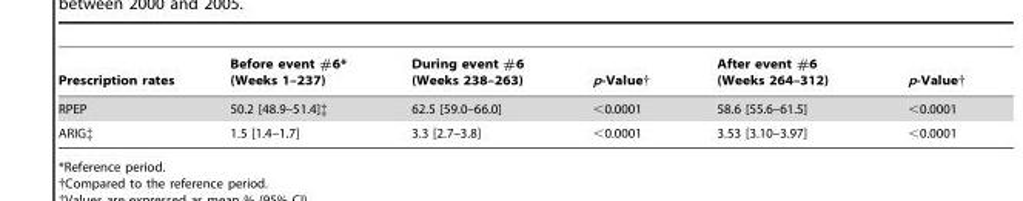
<table><thead><tr><td>Prescription rates</td><td>Before event #6* (Weeks 1–237)</td><td>During event #6 (Weeks 238–263)</td><td>p-Value†</td><td>After event #6 (Weeks 264–312)</td><td>p-Value†</td></tr></thead><tbody><tr><td>RPEP</td><td>50.2 [48.9–51.4]‡</td><td>62.5 [59.0–66.0]</td><td>&lt;0.0001</td><td>58.6 [55.6–61.5]</td><td>&lt;0.0001</td></tr><tr><td>ARIG‡</td><td>1.5 [1.4–1.7]</td><td>3.3 [2.7–3.8]</td><td>&lt;0.0001</td><td>3.53 [3.10–3.97]</td><td>&lt;0.0001</td></tr></tbody></table>